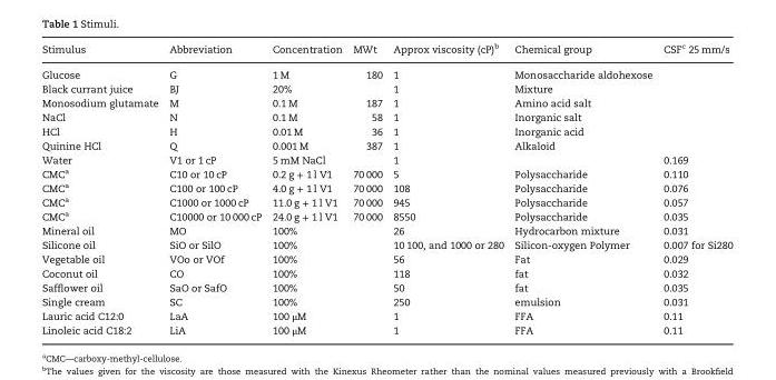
<table><thead><tr><td>Stimulus</td><td>Abbreviation</td><td>Concentration</td><td>MWt</td><td>Approx viscosity (cP)<sup>b</sup></td><td>Chemical group</td><td>CSF<sup>c</sup> 25 mm/s</td></tr></thead><tbody><tr><td>Glucose</td><td>G</td><td>1 M</td><td>180</td><td>1</td><td>Monosaccharide aldohexose</td><td></td></tr><tr><td>Black currant juice</td><td>BJ</td><td>20%</td><td></td><td>1</td><td>Mixture</td><td></td></tr><tr><td>Monosodium glutamate</td><td>M</td><td>0.1 M</td><td>187</td><td>1</td><td>Amino acid salt</td><td></td></tr><tr><td>NaCl</td><td>N</td><td>0.1 M</td><td>58</td><td>1</td><td>Inorganic salt</td><td></td></tr><tr><td>HCl</td><td>H</td><td>0.01 M</td><td>36</td><td>1</td><td>Inorganic acid</td><td></td></tr><tr><td>Quinine HCl</td><td>Q</td><td>0.001 M</td><td>387</td><td>1</td><td>Alkaloid</td><td></td></tr><tr><td>Water</td><td>V1 or 1 cP</td><td>5 mM NaCl</td><td></td><td>1</td><td></td><td>0.169</td></tr><tr><td>CMC<sup>a</sup></td><td>C10 or 10 cP</td><td>0.2 g + 1 l V1</td><td>70 000</td><td>5</td><td>Polysaccharide</td><td>0.110</td></tr><tr><td>CMC<sup>a</sup></td><td>C100 or 100 cP</td><td>4.0 g + 1 l V1</td><td>70 000</td><td>108</td><td>Polysaccharide</td><td>0.076</td></tr><tr><td>CMC<sup>a</sup></td><td>C1000 or 1000 cP</td><td>11.0 g + 1 l V1</td><td>70 000</td><td>945</td><td>Polysaccharide</td><td>0.057</td></tr><tr><td>CMC<sup>a</sup></td><td>C10000 or 10 000 cP</td><td>24.0 g + 1 l V1</td><td>70 000</td><td>8550</td><td>Polysaccharide</td><td>0.035</td></tr><tr><td>Mineral oil</td><td>MO</td><td>100%</td><td></td><td>26</td><td>Hydrocarbon mixture</td><td>0.031</td></tr><tr><td>Silicone oil</td><td>SiO or SilO</td><td>100%</td><td></td><td>10 100, and 1000 or 280</td><td>Silicon-oxygen Polymer</td><td>0.007 for Si280</td></tr><tr><td>Vegetable oil</td><td>VOo or VOf</td><td>100%</td><td></td><td>56</td><td>Fat</td><td>0.029</td></tr><tr><td>Coconut oil</td><td>CO</td><td>100%</td><td></td><td>118</td><td>fat</td><td>0.032</td></tr><tr><td>Safflower oil</td><td>SaO or SafO</td><td>100%</td><td></td><td>50</td><td>fat</td><td>0.035</td></tr><tr><td>Single cream</td><td>SC</td><td>100%</td><td></td><td>250</td><td>emulsion</td><td>0.031</td></tr><tr><td>Lauric acid C12:0</td><td>LaA</td><td>100 μM</td><td></td><td>1</td><td>FFA</td><td>0.11</td></tr><tr><td>Linoleic acid C18:2</td><td>LiA</td><td>100 μM</td><td></td><td>1</td><td>FFA</td><td>0.11</td></tr></tbody></table>